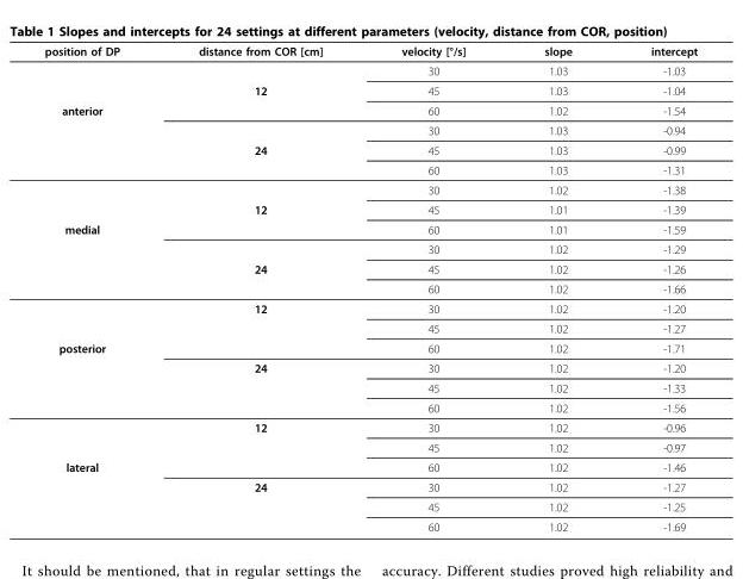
<table><thead><tr><td>position of DP</td><td>distance from COR [cm]</td><td>velocity [°/s]</td><td>slope</td><td>intercept</td></tr></thead><tbody><tr><td></td><td></td><td>30</td><td>1.03</td><td>-1.03</td></tr><tr><td></td><td>12</td><td>45</td><td>1.03</td><td>-1.04</td></tr><tr><td rowspan="6">anterior</td><td></td><td>60</td><td>1.02</td><td>-1.54</td></tr><tr><td></td><td>30</td><td>1.03</td><td>-0.94</td></tr><tr><td>24</td><td>45</td><td>1.03</td><td>-0.99</td></tr><tr><td></td><td>60</td><td>1.03</td><td>-1.31</td></tr><tr><td></td><td>30</td><td>1.02</td><td>-1.38</td></tr><tr><td>12</td><td>45</td><td>1.01</td><td>-1.39</td></tr><tr><td rowspan="6">medial</td><td></td><td>60</td><td>1.01</td><td>-1.59</td></tr><tr><td></td><td>30</td><td>1.02</td><td>-1.29</td></tr><tr><td>24</td><td>45</td><td>1.02</td><td>-1.26</td></tr><tr><td></td><td>60</td><td>1.02</td><td>-1.66</td></tr><tr><td>12</td><td>30</td><td>1.02</td><td>-1.20</td></tr><tr><td></td><td>45</td><td>1.02</td><td>-1.27</td></tr><tr><td rowspan="6">posterior</td><td></td><td>60</td><td>1.02</td><td>-1.71</td></tr><tr><td>24</td><td>30</td><td>1.02</td><td>-1.20</td></tr><tr><td></td><td>45</td><td>1.02</td><td>-1.33</td></tr><tr><td></td><td>60</td><td>1.02</td><td>-1.56</td></tr><tr><td>12</td><td>30</td><td>1.02</td><td>-0.96</td></tr><tr><td></td><td>45</td><td>1.02</td><td>-0.97</td></tr><tr><td rowspan="4">lateral</td><td></td><td>60</td><td>1.02</td><td>-1.46</td></tr><tr><td>24</td><td>30</td><td>1.02</td><td>-1.27</td></tr><tr><td></td><td>45</td><td>1.02</td><td>-1.25</td></tr><tr><td></td><td>60</td><td>1.02</td><td>-1.69</td></tr></tbody></table>